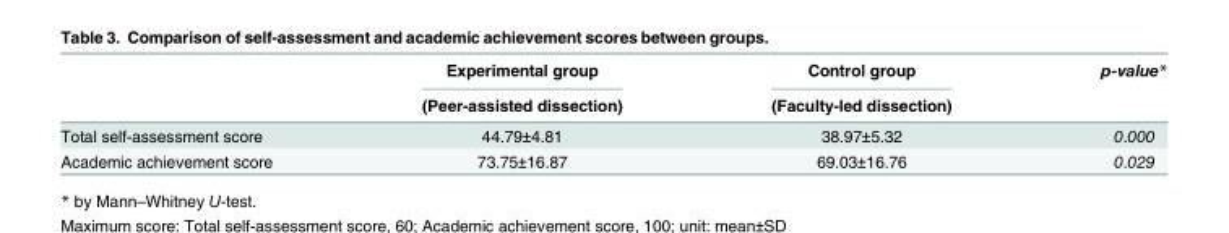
<table><thead><tr><td rowspan="2"></td><td rowspan="2">Experimental group (Peer-assisted dissection)</td><td rowspan="2">Control group (Faculty-led dissection)</td><td rowspan="2">p-value*</td></tr><tr></tr></thead><tbody><tr><td>Total self-assessment score</td><td>44.79±4.81</td><td>38.97±5.32</td><td>0.000</td></tr><tr><td>Academic achievement score</td><td>73.75±16.87</td><td>69.03±16.76</td><td>0.029</td></tr></tbody></table>